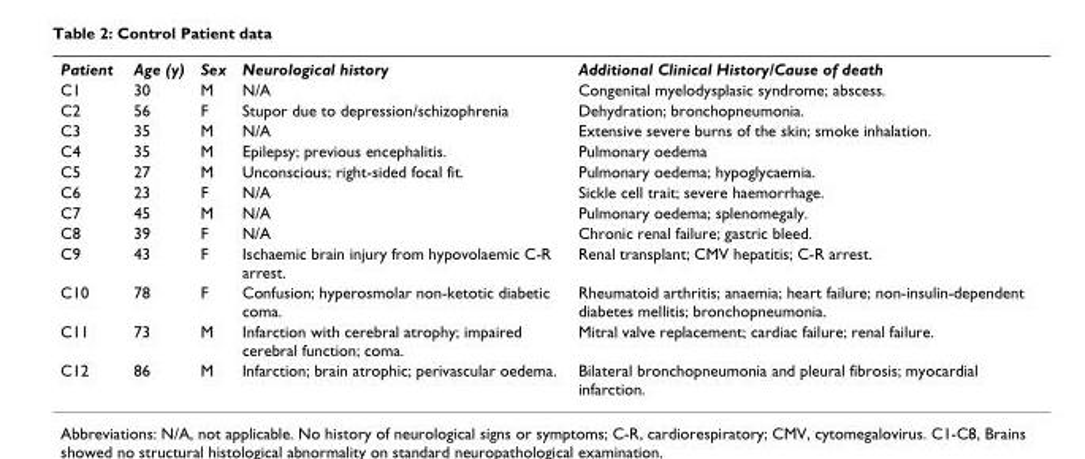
<table><tbody><tr><td>Patient</td><td>Age (y)</td><td>Sex</td><td>Neurological history</td><td>Additional Clinical History/Cause of death</td></tr><tr><td>C1</td><td>30</td><td>M</td><td>N/A</td><td>Congenital myelodysplasic syndrome; abscess.</td></tr><tr><td>C2</td><td>56</td><td>F</td><td>Stupor due to depression/schizophrenia</td><td>Dehydration; bronchopneumonia.</td></tr><tr><td>C3</td><td>35</td><td>M</td><td>N/A</td><td>Extensive severe burns of the skin; smoke inhalation.</td></tr><tr><td>C4</td><td>35</td><td>M</td><td>Epilepsy; previous encephalitis.</td><td>Pulmonary oedema</td></tr><tr><td>C5</td><td>27</td><td>M</td><td>Unconscious; right-sided focal fit.</td><td>Pulmonary oedema; hypoglycaemia.</td></tr><tr><td>C6</td><td>23</td><td>F</td><td>N/A</td><td>Sickle cell trait; severe haemorrhage.</td></tr><tr><td>C7</td><td>45</td><td>M</td><td>N/A</td><td>Pulmonary oedema; splenomegaly.</td></tr><tr><td>C8</td><td>39</td><td>F</td><td>N/A</td><td>Chronic renal failure; gastric bleed.</td></tr><tr><td>C9</td><td>43</td><td>F</td><td>Ischaemic brain injury from hypovolaemic C-R arrest.</td><td>Renal transplant; CMV hepatitis; C-R arrest.</td></tr><tr><td>C10</td><td>78</td><td>F</td><td>Confusion; hyperosmolar non-ketotic diabetic coma.</td><td>Rheumatoid arthritis; anaemia; heart failure; non-insulin-dependent diabetes mellitis; bronchopneumonia.</td></tr><tr><td>C11</td><td>73</td><td>M</td><td>Infarction with cerebral atrophy; impaired cerebral function; coma.</td><td>Mitral valve replacement; cardiac failure; renal failure.</td></tr><tr><td>C12</td><td>86</td><td>M</td><td>Infarction; brain atrophic; perivascular oedema.</td><td>Bilateral bronchopneumonia and pleural fibrosis; myocardial infarction.</td></tr></tbody></table>